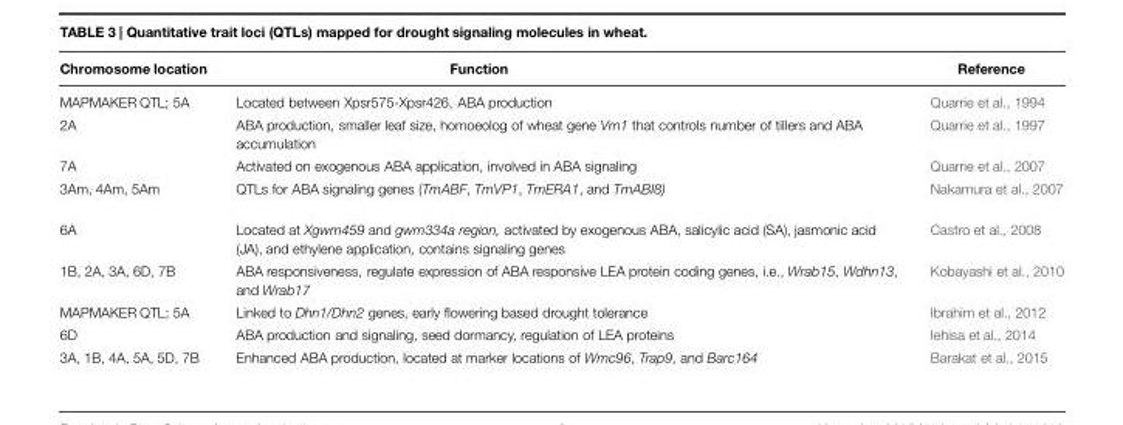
<table><thead><tr><td>Chromosome location</td><td>Function</td><td>Reference</td></tr></thead><tbody><tr><td>MAPMAKER QTL; 5A</td><td>Located between Xpsr575-Xpsr426, ABA production</td><td>Quarrie et al., 1994</td></tr><tr><td>2A</td><td>ABA production, smaller leaf size, homoeolog of wheat gene Vrn1 that controls number of tillers and ABA accumulation</td><td>Quarrie et al., 1997</td></tr><tr><td>7A</td><td>Activated on exogenous ABA application, involved in ABA signaling</td><td>Quarrie et al., 2007</td></tr><tr><td>3Am, 4Am, 5Am</td><td>QTLs for ABA signaling genes (TmABF, TmVP1, TmERA1, and TmABI8)</td><td>Nakamura et al., 2007</td></tr><tr><td>6A</td><td>Located at Xgwm459 and gwm334a region, activated by exogenous ABA, salicylic acid (SA), jasmonic acid (JA), and ethylene application, contains signaling genes</td><td>Castro et al., 2008</td></tr><tr><td>1B, 2A, 3A, 6D, 7B</td><td>ABA responsiveness, regulate expression of ABA responsive LEA protein coding genes, i.e., Wrab15, Wdhn13, and Wrab17</td><td>Kobayashi et al., 2010</td></tr><tr><td>MAPMAKER QTL; 5A</td><td>Linked to Dhn1/Dhn2 genes, early flowering based drought tolerance</td><td>Ibrahim et al., 2012</td></tr><tr><td>6D</td><td>ABA production and signaling, seed dormancy, regulation of LEA proteins</td><td>Iehisa et al., 2014</td></tr><tr><td>3A, 1B, 4A, 5A, 5D, 7B</td><td>Enhanced ABA production, located at marker locations of Wmc96, Trap9, and Barc164</td><td>Barakat et al., 2015</td></tr></tbody></table>